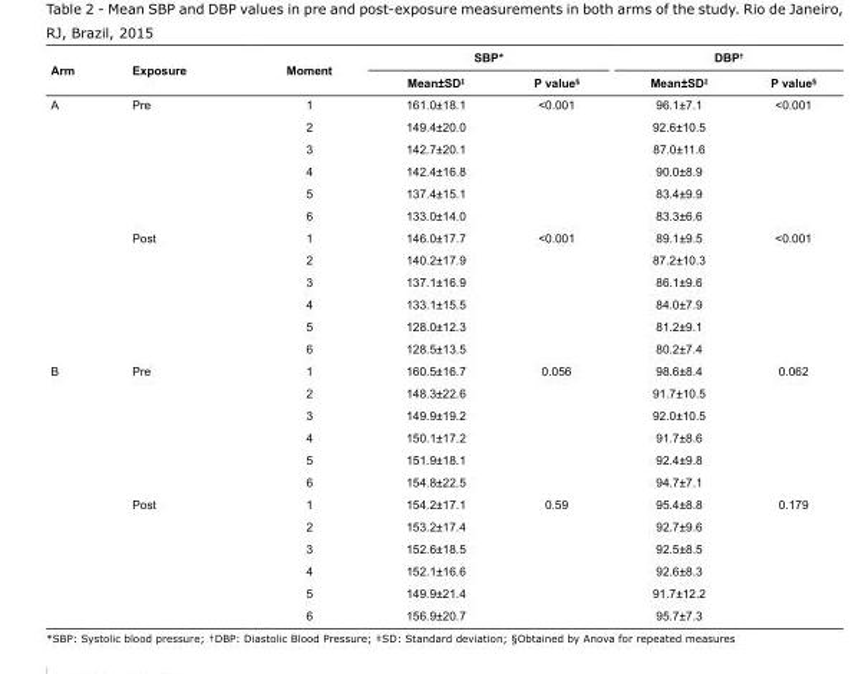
<table><tbody><tr><td rowspan="2">Arm</td><td rowspan="2">Exposure</td><td rowspan="2">Moment</td><td colspan="2">SBP*</td><td colspan="2">DBP<sup>†</sup></td></tr><tr><td>Mean±SD<sup>‡</sup></td><td>P value<sup>§</sup></td><td>Mean±SD<sup>‡</sup></td><td>P value<sup>§</sup></td></tr><tr><td rowspan="12">A</td><td rowspan="6">Pre</td><td>1</td><td>161.0±18.1</td><td rowspan="6">&lt;0.001</td><td>96.1±7.1</td><td rowspan="6">&lt;0.001</td></tr><tr><td>2</td><td>149.4±20.0</td><td>92.6±10.5</td></tr><tr><td>3</td><td>142.7±20.1</td><td>87.0±11.6</td></tr><tr><td>4</td><td>142.4±16.8</td><td>90.0±8.9</td></tr><tr><td>5</td><td>137.4±15.1</td><td>83.4±9.9</td></tr><tr><td>6</td><td>133.0±14.0</td><td>83.3±6.6</td></tr><tr><td rowspan="6">Post</td><td>1</td><td>146.0±17.7</td><td rowspan="6">&lt;0.001</td><td>89.1±9.5</td><td rowspan="6">&lt;0.001</td></tr><tr><td>2</td><td>140.2±17.9</td><td>87.2±10.3</td></tr><tr><td>3</td><td>137.1±16.9</td><td>86.1±9.6</td></tr><tr><td>4</td><td>133.1±15.5</td><td>84.0±7.9</td></tr><tr><td>5</td><td>128.0±12.3</td><td>81.2±9.1</td></tr><tr><td>6</td><td>128.5±13.5</td><td>80.2±7.4</td></tr><tr><td rowspan="12">B</td><td rowspan="6">Pre</td><td>1</td><td>160.5±16.7</td><td rowspan="6">0.056</td><td>98.6±8.4</td><td rowspan="6">0.062</td></tr><tr><td>2</td><td>148.3±22.6</td><td>91.7±10.5</td></tr><tr><td>3</td><td>149.9±19.2</td><td>92.0±10.5</td></tr><tr><td>4</td><td>150.1±17.2</td><td>91.7±8.6</td></tr><tr><td>5</td><td>151.9±18.1</td><td>92.4±9.8</td></tr><tr><td>6</td><td>154.8±22.5</td><td>94.7±7.1</td></tr><tr><td rowspan="6">Post</td><td>1</td><td>154.2±17.1</td><td rowspan="6">0.59</td><td>95.4±8.8</td><td rowspan="6">0.179</td></tr><tr><td>2</td><td>153.2±17.4</td><td>92.7±9.6</td></tr><tr><td>3</td><td>152.6±18.5</td><td>92.5±8.5</td></tr><tr><td>4</td><td>152.1±16.6</td><td>92.6±8.3</td></tr><tr><td>5</td><td>149.9±21.4</td><td>91.7±12.2</td></tr><tr><td>6</td><td>156.9±20.7</td><td>95.7±7.3</td></tr></tbody></table>